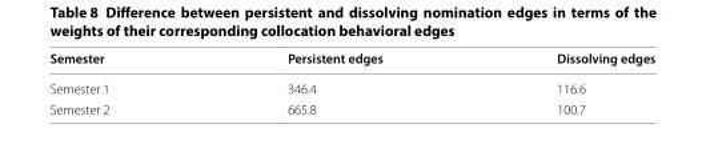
<table><thead><tr><td>Semester</td><td>Persistent edges</td><td>Dissolving edges</td></tr></thead><tbody><tr><td>Semester 1</td><td>346.4</td><td>116.6</td></tr><tr><td>Semester 2</td><td>665.8</td><td>100.7</td></tr></tbody></table>